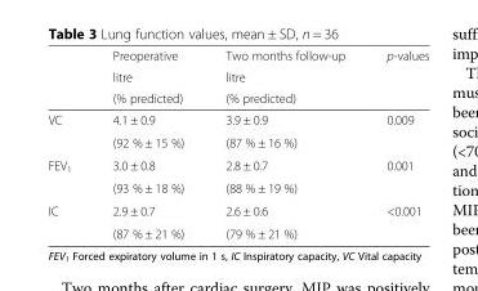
<table><thead><tr><td rowspan="3"></td><td rowspan="3">Preoperative litre (% predicted)</td><td rowspan="3">Two months follow-up litre (% predicted)</td><td rowspan="3">p-values</td></tr><tr></tr><tr></tr></thead><tbody><tr><td rowspan="2">VC</td><td>4.1 ± 0.9</td><td>3.9 ± 0.9</td><td rowspan="2">0.009</td></tr><tr><td>(92 % ± 15 %)</td><td>(87 % ± 16 %)</td></tr><tr><td rowspan="2">FEV<sub>1</sub></td><td>3.0 ± 0.8</td><td>2.8 ± 0.7</td><td rowspan="2">0.001</td></tr><tr><td>(93 % ± 18 %)</td><td>(88 % ± 19 %)</td></tr><tr><td rowspan="2">IC</td><td>2.9 ± 0.7</td><td>2.6 ± 0.6</td><td rowspan="2">&lt;0.001</td></tr><tr><td>(87 % ± 21 %)</td><td>(79 % ± 21 %)</td></tr></tbody></table>